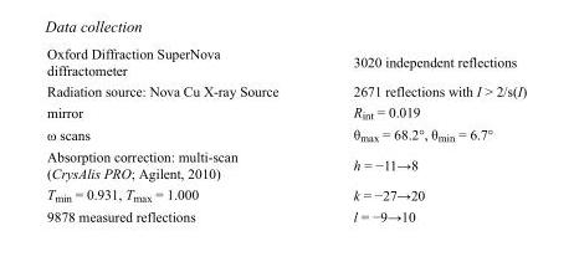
<table><tbody><tr><td>Oxford Diffraction SuperNova diffractometer</td><td>3020 independent reflections</td></tr><tr><td>Radiation source: Nova Cu X-ray Source</td><td>2671 reflections with I &gt; 2/s(I)</td></tr><tr><td>mirror</td><td>R<sub>int</sub> = 0.019</td></tr><tr><td>ω scans</td><td>θ<sub>max</sub> = 68.2°, θ<sub>min</sub> = 6.7°</td></tr><tr><td>Absorption correction: multi-scan (CrysAlis PRO; Agilent, 2010)</td><td>h = −11→8</td></tr><tr><td>T<sub>min</sub> = 0.931, T<sub>max</sub> = 1.000</td><td>k = −27→20</td></tr><tr><td>9878 measured reflections</td><td>l = −9→10</td></tr></tbody></table>